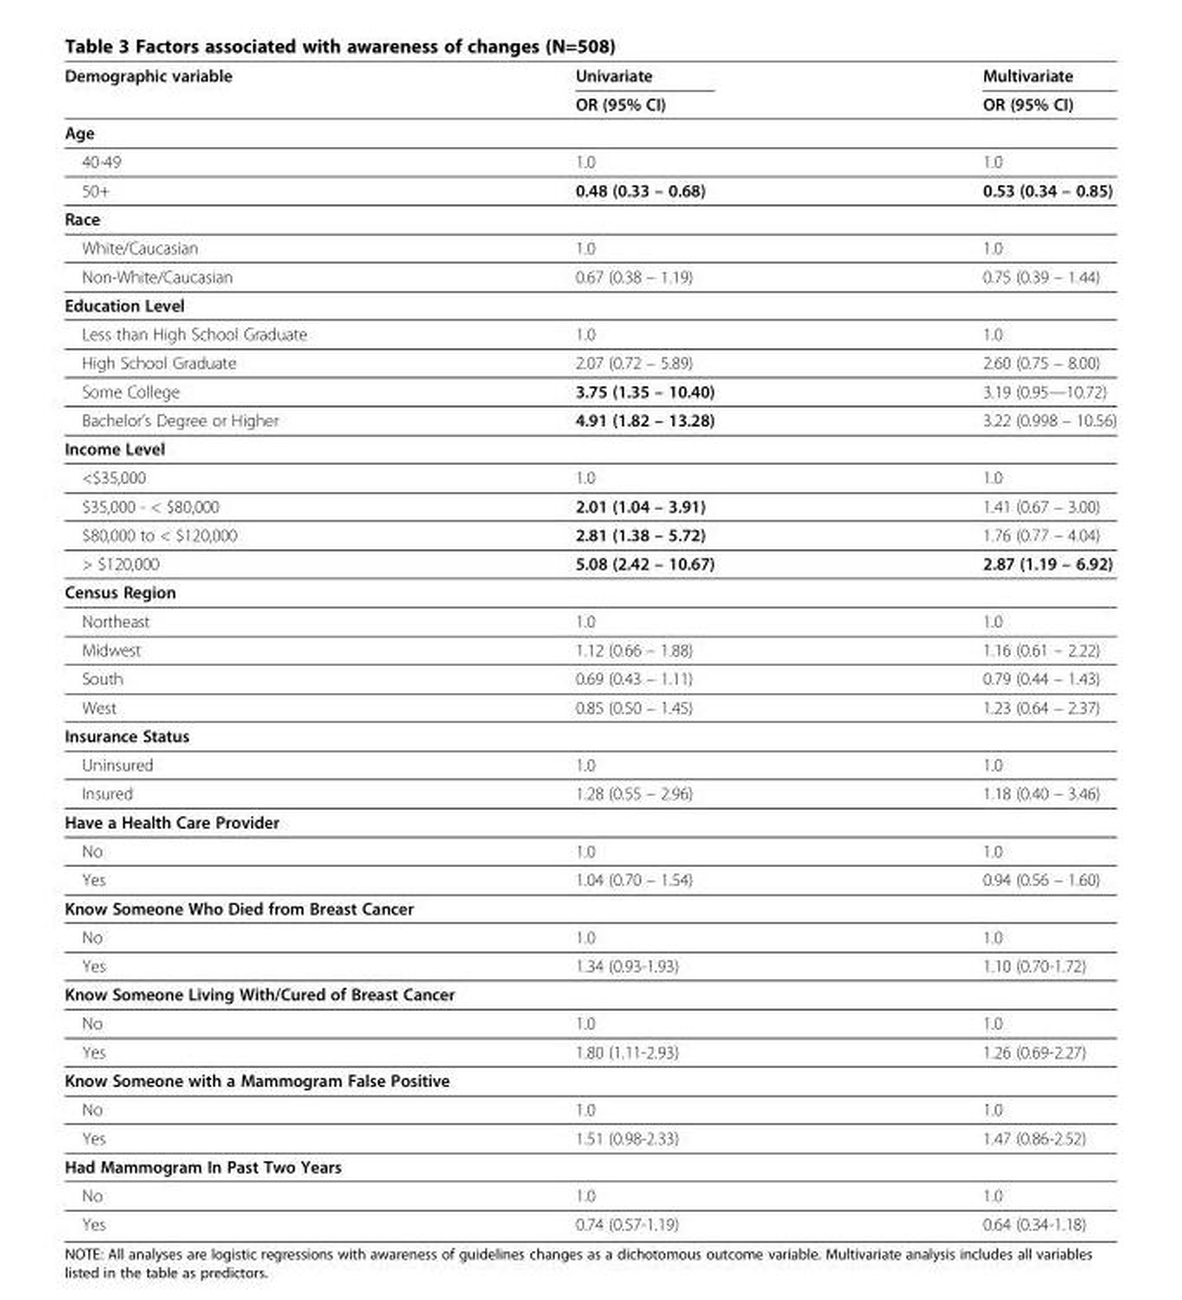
<table><thead><tr><td rowspan="2">Demographic variable</td><td rowspan="2">Univariate OR (95% CI)</td><td rowspan="2">Multivariate OR (95% CI)</td></tr><tr></tr></thead><tbody><tr><td colspan="3">Age</td></tr><tr><td>40-49</td><td>1.0</td><td>1.0</td></tr><tr><td>50+</td><td>0.48 (0.33 – 0.68)</td><td>0.53 (0.34 – 0.85)</td></tr><tr><td colspan="3">Race</td></tr><tr><td>White/Caucasian</td><td>1.0</td><td>1.0</td></tr><tr><td>Non-White/Caucasian</td><td>0.67 (0.38 – 1.19)</td><td>0.75 (0.39 – 1.44)</td></tr><tr><td colspan="3">Education Level</td></tr><tr><td>Less than High School Graduate</td><td>1.0</td><td>1.0</td></tr><tr><td>High School Graduate</td><td>2.07 (0.72 – 5.89)</td><td>2.60 (0.75 – 8.00)</td></tr><tr><td>Some College</td><td>3.75 (1.35 – 10.40)</td><td>3.19 (0.95—10.72)</td></tr><tr><td>Bachelor’s Degree or Higher</td><td>4.91 (1.82 – 13.28)</td><td>3.22 (0.998 – 10.56)</td></tr><tr><td colspan="3">Income Level</td></tr><tr><td>&lt;$35,000</td><td>1.0</td><td>1.0</td></tr><tr><td>$35,000 - &lt; $80,000</td><td>2.01 (1.04 – 3.91)</td><td>1.41 (0.67 – 3.00)</td></tr><tr><td>$80,000 to &lt; $120,000</td><td>2.81 (1.38 – 5.72)</td><td>1.76 (0.77 – 4.04)</td></tr><tr><td>&gt; $120,000</td><td>5.08 (2.42 – 10.67)</td><td>2.87 (1.19 – 6.92)</td></tr><tr><td colspan="3">Census Region</td></tr><tr><td>Northeast</td><td>1.0</td><td>1.0</td></tr><tr><td>Midwest</td><td>1.12 (0.66 – 1.88)</td><td>1.16 (0.61 – 2.22)</td></tr><tr><td>South</td><td>0.69 (0.43 – 1.11)</td><td>0.79 (0.44 – 1.43)</td></tr><tr><td>West</td><td>0.85 (0.50 – 1.45)</td><td>1.23 (0.64 – 2.37)</td></tr><tr><td colspan="3">Insurance Status</td></tr><tr><td>Uninsured</td><td>1.0</td><td>1.0</td></tr><tr><td>Insured</td><td>1.28 (0.55 – 2.96)</td><td>1.18 (0.40 – 3.46)</td></tr><tr><td colspan="3">Have a Health Care Provider</td></tr><tr><td>No</td><td>1.0</td><td>1.0</td></tr><tr><td>Yes</td><td>1.04 (0.70 – 1.54)</td><td>0.94 (0.56 – 1.60)</td></tr><tr><td colspan="3">Know Someone Who Died from Breast Cancer</td></tr><tr><td>No</td><td>1.0</td><td>1.0</td></tr><tr><td>Yes</td><td>1.34 (0.93-1.93)</td><td>1.10 (0.70-1.72)</td></tr><tr><td colspan="3">Know Someone Living With/Cured of Breast Cancer</td></tr><tr><td>No</td><td>1.0</td><td>1.0</td></tr><tr><td>Yes</td><td>1.80 (1.11-2.93)</td><td>1.26 (0.69-2.27)</td></tr><tr><td colspan="3">Know Someone with a Mammogram False Positive</td></tr><tr><td>No</td><td>1.0</td><td>1.0</td></tr><tr><td>Yes</td><td>1.51 (0.98-2.33)</td><td>1.47 (0.86-2.52)</td></tr><tr><td colspan="3">Had Mammogram In Past Two Years</td></tr><tr><td>No</td><td>1.0</td><td>1.0</td></tr><tr><td>Yes</td><td>0.74 (0.57-1.19)</td><td>0.64 (0.34-1.18)</td></tr></tbody></table>